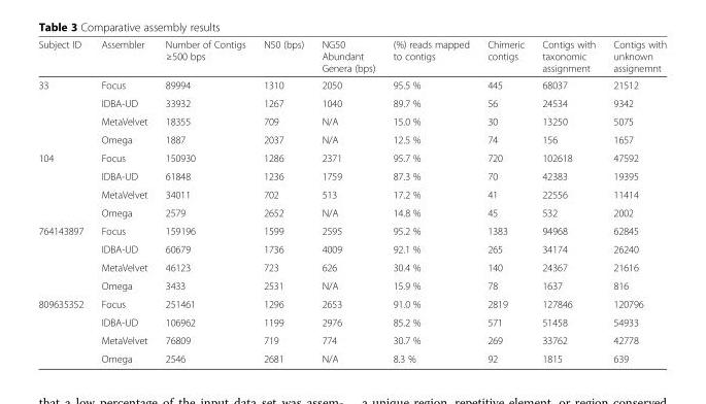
<table><thead><tr><td>Subject ID</td><td>Assembler</td><td>Number of Contigs ≥500 bps</td><td>N50 (bps)</td><td>NG50 Abundant Genera (bps)</td><td>(%) reads mapped to contigs</td><td>Chimeric contigs</td><td>Contigs with taxonomic assignment</td><td>Contigs with unknown assignemnt</td></tr></thead><tbody><tr><td rowspan="4">33</td><td>Focus</td><td>89994</td><td>1310</td><td>2050</td><td>95.5 %</td><td>445</td><td>68037</td><td>21512</td></tr><tr><td>IDBA-UD</td><td>33932</td><td>1267</td><td>1040</td><td>89.7 %</td><td>56</td><td>24534</td><td>9342</td></tr><tr><td>MetaVelvet</td><td>18355</td><td>709</td><td>N/A</td><td>15.0 %</td><td>30</td><td>13250</td><td>5075</td></tr><tr><td>Omega</td><td>1887</td><td>2037</td><td>N/A</td><td>12.5 %</td><td>74</td><td>156</td><td>1657</td></tr><tr><td rowspan="4">104</td><td>Focus</td><td>150930</td><td>1286</td><td>2371</td><td>95.7 %</td><td>720</td><td>102618</td><td>47592</td></tr><tr><td>IDBA-UD</td><td>61848</td><td>1236</td><td>1759</td><td>87.3 %</td><td>70</td><td>42383</td><td>19395</td></tr><tr><td>MetaVelvet</td><td>34011</td><td>702</td><td>513</td><td>17.2 %</td><td>41</td><td>22556</td><td>11414</td></tr><tr><td>Omega</td><td>2579</td><td>2652</td><td>N/A</td><td>14.8 %</td><td>45</td><td>532</td><td>2002</td></tr><tr><td rowspan="4">764143897</td><td>Focus</td><td>159196</td><td>1599</td><td>2595</td><td>95.2 %</td><td>1383</td><td>94968</td><td>62845</td></tr><tr><td>IDBA-UD</td><td>60679</td><td>1736</td><td>4009</td><td>92.1 %</td><td>265</td><td>34174</td><td>26240</td></tr><tr><td>MetaVelvet</td><td>46123</td><td>723</td><td>626</td><td>30.4 %</td><td>140</td><td>24367</td><td>21616</td></tr><tr><td>Omega</td><td>3433</td><td>2531</td><td>N/A</td><td>15.9 %</td><td>78</td><td>1637</td><td>816</td></tr><tr><td rowspan="4">809635352</td><td>Focus</td><td>251461</td><td>1296</td><td>2653</td><td>91.0 %</td><td>2819</td><td>127846</td><td>120796</td></tr><tr><td>IDBA-UD</td><td>106962</td><td>1199</td><td>2976</td><td>85.2 %</td><td>571</td><td>51458</td><td>54933</td></tr><tr><td>MetaVelvet</td><td>76809</td><td>719</td><td>774</td><td>30.7 %</td><td>269</td><td>33762</td><td>42778</td></tr><tr><td>Omega</td><td>2546</td><td>2681</td><td>N/A</td><td>8.3 %</td><td>92</td><td>1815</td><td>639</td></tr></tbody></table>